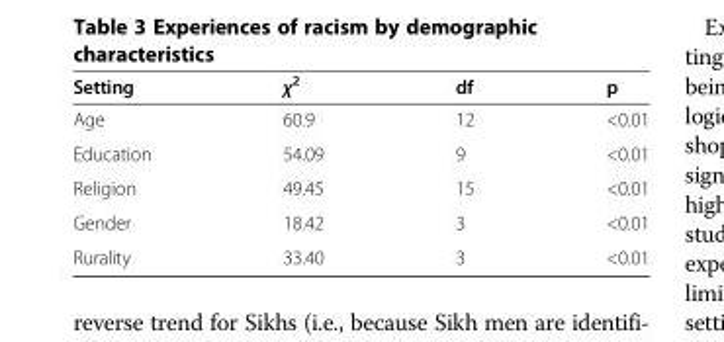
<table><thead><tr><td>Setting</td><td>χ<sup>2</sup></td><td>df</td><td>p</td></tr></thead><tbody><tr><td>Age</td><td>60.9</td><td>12</td><td>&lt;0.01</td></tr><tr><td>Education</td><td>54.09</td><td>9</td><td>&lt;0.01</td></tr><tr><td>Religion</td><td>49.45</td><td>15</td><td>&lt;0.01</td></tr><tr><td>Gender</td><td>18.42</td><td>3</td><td>&lt;0.01</td></tr><tr><td>Rurality</td><td>33.40</td><td>3</td><td>&lt;0.01</td></tr></tbody></table>